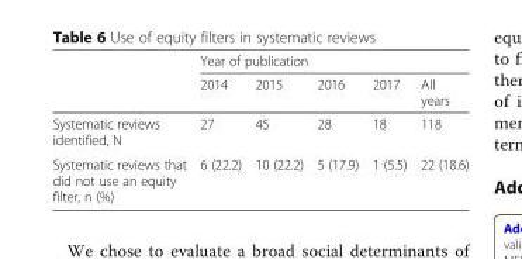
<table><thead><tr><td rowspan="2"></td><td colspan="5">Year of publication</td></tr><tr><td>2014</td><td>2015</td><td>2016</td><td>2017</td><td>All years</td></tr></thead><tbody><tr><td>Systematic reviews identified, N</td><td>27</td><td>45</td><td>28</td><td>18</td><td>118</td></tr><tr><td>Systematic reviews that did not use an equity filter, n (%)</td><td>6 (22.2)</td><td>10 (22.2)</td><td>5 (17.9)</td><td>1 (5.5)</td><td>22 (18.6)</td></tr></tbody></table>